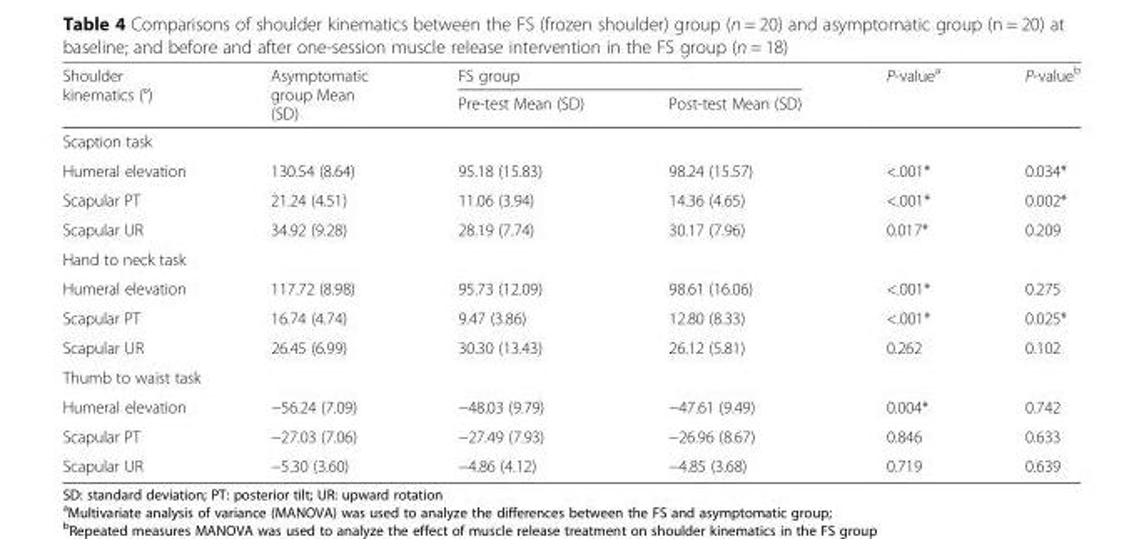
<table><thead><tr><td rowspan="2">Shoulder kinematics (°)</td><td rowspan="2">Asymptomatic group Mean (SD)</td><td colspan="2">FS group</td><td rowspan="2">P-value<sup>a</sup></td><td rowspan="2">P-value<sup>b</sup></td></tr><tr><td>Pre-test Mean (SD)</td><td>Post-test Mean (SD)</td></tr></thead><tbody><tr><td colspan="6">Scaption task</td></tr><tr><td>Humeral elevation</td><td>130.54 (8.64)</td><td>95.18 (15.83)</td><td>98.24 (15.57)</td><td>&lt;.001*</td><td>0.034*</td></tr><tr><td>Scapular PT</td><td>21.24 (4.51)</td><td>11.06 (3.94)</td><td>14.36 (4.65)</td><td>&lt;.001*</td><td>0.002*</td></tr><tr><td>Scapular UR</td><td>34.92 (9.28)</td><td>28.19 (7.74)</td><td>30.17 (7.96)</td><td>0.017*</td><td>0.209</td></tr><tr><td colspan="6">Hand to neck task</td></tr><tr><td>Humeral elevation</td><td>117.72 (8.98)</td><td>95.73 (12.09)</td><td>98.61 (16.06)</td><td>&lt;.001*</td><td>0.275</td></tr><tr><td>Scapular PT</td><td>16.74 (4.74)</td><td>9.47 (3.86)</td><td>12.80 (8.33)</td><td>&lt;.001*</td><td>0.025*</td></tr><tr><td>Scapular UR</td><td>26.45 (6.99)</td><td>30.30 (13.43)</td><td>26.12 (5.81)</td><td>0.262</td><td>0.102</td></tr><tr><td colspan="6">Thumb to waist task</td></tr><tr><td>Humeral elevation</td><td>−56.24 (7.09)</td><td>−48.03 (9.79)</td><td>−47.61 (9.49)</td><td>0.004*</td><td>0.742</td></tr><tr><td>Scapular PT</td><td>−27.03 (7.06)</td><td>−27.49 (7.93)</td><td>−26.96 (8.67)</td><td>0.846</td><td>0.633</td></tr><tr><td>Scapular UR</td><td>−5.30 (3.60)</td><td>−4.86 (4.12)</td><td>−4.85 (3.68)</td><td>0.719</td><td>0.639</td></tr></tbody></table>